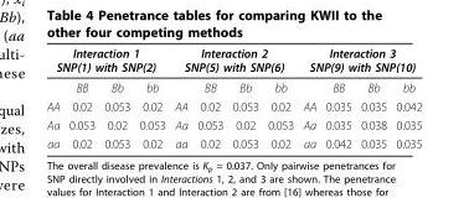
<table><thead><tr><td colspan="4">Interaction 1 SNP(1) with SNP(2)</td><td colspan="4">Interaction 2 SNP(5) with SNP(6)</td><td colspan="4">Interaction 3 SNP(9) with SNP(10)</td></tr><tr><td></td><td>BB</td><td>Bb</td><td>bb</td><td></td><td>BB</td><td>Bb</td><td>bb</td><td></td><td>BB</td><td>Bb</td><td>bb</td></tr></thead><tbody><tr><td>AA</td><td>0.02</td><td>0.053</td><td>0.02</td><td>AA</td><td>0.02</td><td>0.053</td><td>0.02</td><td>AA</td><td>0.035</td><td>0.035</td><td>0.042</td></tr><tr><td>Aa</td><td>0.053</td><td>0.02</td><td>0.053</td><td>Aa</td><td>0.053</td><td>0.02</td><td>0.053</td><td>Aa</td><td>0.035</td><td>0.038</td><td>0.035</td></tr><tr><td>aa</td><td>0.02</td><td>0.053</td><td>0.02</td><td>aa</td><td>0.02</td><td>0.053</td><td>0.02</td><td>aa</td><td>0.042</td><td>0.035</td><td>0.035</td></tr></tbody></table>